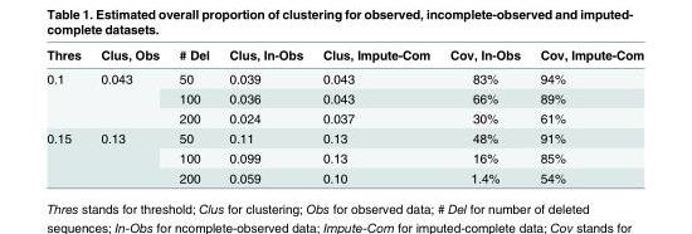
<table><thead><tr><td>Thres</td><td>Clus, Obs</td><td># Del</td><td>Clus, In-Obs</td><td>Clus, Impute-Com</td><td>Cov, In-Obs</td><td>Cov, Impute-Com</td></tr></thead><tbody><tr><td rowspan="3">0.1</td><td rowspan="3">0.043</td><td>50</td><td>0.039</td><td>0.043</td><td>83%</td><td>94%</td></tr><tr><td>100</td><td>0.036</td><td>0.043</td><td>66%</td><td>89%</td></tr><tr><td>200</td><td>0.024</td><td>0.037</td><td>30%</td><td>61%</td></tr><tr><td rowspan="3">0.15</td><td rowspan="3">0.13</td><td>50</td><td>0.11</td><td>0.13</td><td>48%</td><td>91%</td></tr><tr><td>100</td><td>0.099</td><td>0.13</td><td>16%</td><td>85%</td></tr><tr><td>200</td><td>0.059</td><td>0.10</td><td>1.4%</td><td>54%</td></tr></tbody></table>